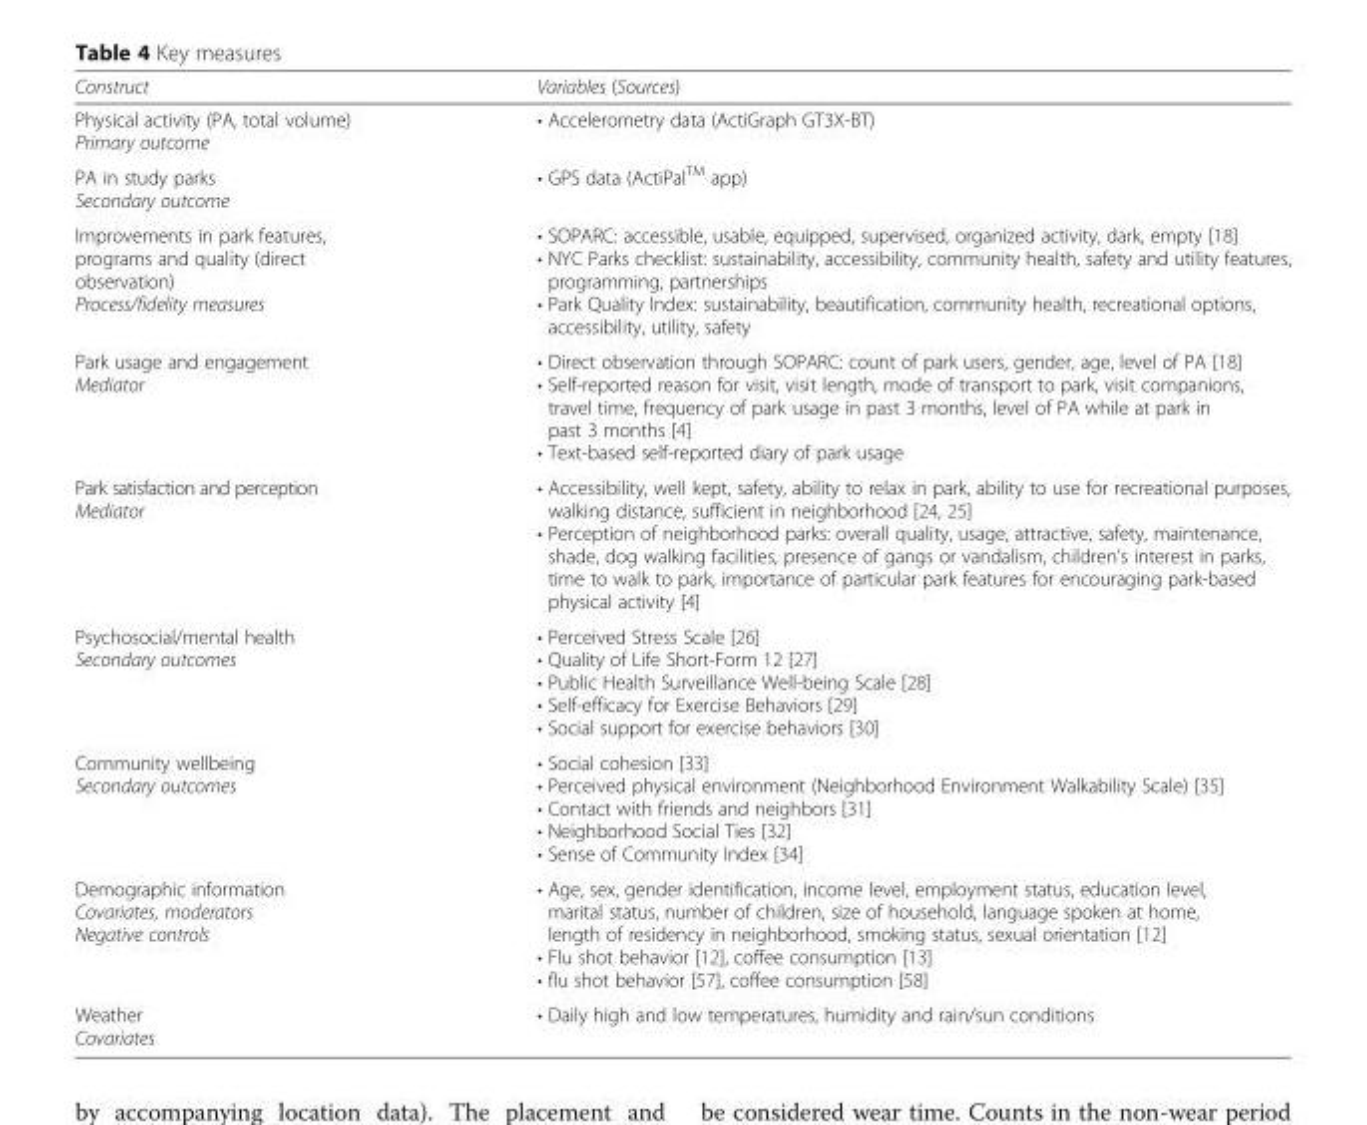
<table><thead><tr><td>Construct</td><td>Variables (Sources)</td></tr></thead><tbody><tr><td>Physical activity (PA, total volume) Primary outcome</td><td>• Accelerometry data (ActiGraph GT3X-BT)</td></tr><tr><td>PA in study parks Secondary outcome</td><td>• GPS data (ActiPal<sup>TM</sup> app)</td></tr><tr><td>Improvements in park features, programs and quality (direct observation) Process/fidelity measures</td><td>• SOPARC: accessible, usable, equipped, supervised, organized activity, dark, empty [18] • NYC Parks checklist: sustainability, accessibility, community health, safety and utility features, programming, partnerships • Park Quality Index: sustainability, beautification, community health, recreational options, accessibility, utility, safety</td></tr><tr><td>Park usage and engagement Mediator</td><td>• Direct observation through SOPARC: count of park users, gender, age, level of PA [18] • Self-reported reason for visit, visit length, mode of transport to park, visit companions, travel time, frequency of park usage in past 3 months, level of PA while at park in past 3 months [4] • Text-based self-reported diary of park usage</td></tr><tr><td>Park satisfaction and perception Mediator</td><td>• Accessibility, well kept, safety, ability to relax in park, ability to use for recreational purposes, walking distance, sufficient in neighborhood [24, 25] • Perception of neighborhood parks: overall quality, usage, attractive, safety, maintenance, shade, dog walking facilities, presence of gangs or vandalism, children’s interest in parks, time to walk to park, importance of particular park features for encouraging park-based physical activity [4]</td></tr><tr><td>Psychosocial/mental health Secondary outcomes</td><td>• Perceived Stress Scale [26] • Quality of Life Short-Form 12 [27] • Public Health Surveillance Well-being Scale [28] • Self-efficacy for Exercise Behaviors [29] • Social support for exercise behaviors [30]</td></tr><tr><td>Community wellbeing Secondary outcomes</td><td>• Social cohesion [33] • Perceived physical environment (Neighborhood Environment Walkability Scale) [35] • Contact with friends and neighbors [31] • Neighborhood Social Ties [32] • Sense of Community Index [34]</td></tr><tr><td>Demographic information Covariates, moderators Negative controls</td><td>• Age, sex, gender identification, income level, employment status, education level, marital status, number of children, size of household, language spoken at home, length of residency in neighborhood, smoking status, sexual orientation [12] • Flu shot behavior [12], coffee consumption [13] • flu shot behavior [57], coffee consumption [58]</td></tr><tr><td>Weather Covariates</td><td>• Daily high and low temperatures, humidity and rain/sun conditions</td></tr></tbody></table>